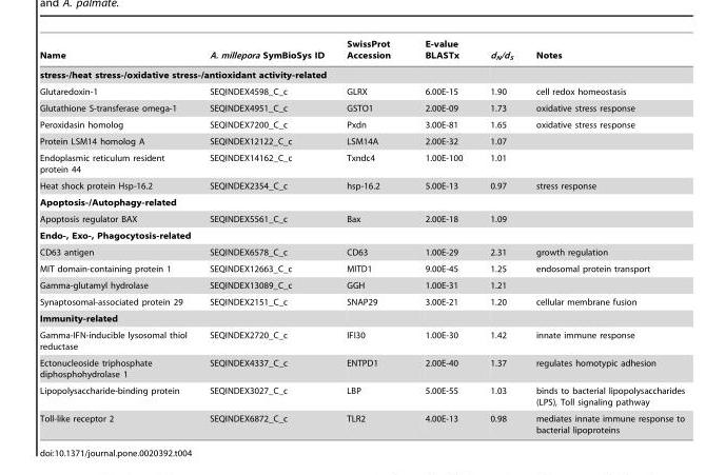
<table><thead><tr><td>Name</td><td>A. millepora SymBioSys ID</td><td>SwissProt Accession</td><td>E-value BLASTx</td><td>d<sub>N</sub>/d<sub>S</sub></td><td>Notes</td></tr></thead><tbody><tr><td colspan="6">stress-/heat stress-/oxidative stress-/antioxidant activity-related</td></tr><tr><td>Glutaredoxin-1</td><td>SEQINDEX4598_C_c</td><td>GLRX</td><td>6.00E-15</td><td>1.90</td><td>cell redox homeostasis</td></tr><tr><td>Glutathione S-transferase omega-1</td><td>SEQINDEX4951_C_c</td><td>GSTO1</td><td>2.00E-09</td><td>1.73</td><td>oxidative stress response</td></tr><tr><td>Peroxidasin homolog</td><td>SEQINDEX7200_C_c</td><td>Pxdn</td><td>3.00E-81</td><td>1.65</td><td>oxidative stress response</td></tr><tr><td>Protein LSM14 homolog A</td><td>SEQINDEX12122_C_c</td><td>LSM14A</td><td>2.00E-32</td><td>1.07</td><td></td></tr><tr><td>Endoplasmic reticulum resident protein 44</td><td>SEQINDEX14162_C_c</td><td>Txndc4</td><td>1.00E-100</td><td>1.01</td><td></td></tr><tr><td>Heat shock protein Hsp-16.2</td><td>SEQINDEX2354_C_c</td><td>hsp-16.2</td><td>5.00E-13</td><td>0.97</td><td>stress response</td></tr><tr><td colspan="6">Apoptosis-/Autophagy-related</td></tr><tr><td>Apoptosis regulator BAX</td><td>SEQINDEX5561_C_c</td><td>Bax</td><td>2.00E-18</td><td>1.09</td><td></td></tr><tr><td colspan="6">Endo-, Exo-, Phagocytosis-related</td></tr><tr><td>CD63 antigen</td><td>SEQINDEX6578_C_c</td><td>CD63</td><td>1.00E-29</td><td>2.31</td><td>growth regulation</td></tr><tr><td>MIT domain-containing protein 1</td><td>SEQINDEX12663_C_c</td><td>MITD1</td><td>9.00E-45</td><td>1.25</td><td>endosomal protein transport</td></tr><tr><td>Gamma-glutamyl hydrolase</td><td>SEQINDEX13089_C_c</td><td>GGH</td><td>1.00E-31</td><td>1.21</td><td></td></tr><tr><td>Synaptosomal-associated protein 29</td><td>SEQINDEX2151_C_c</td><td>SNAP29</td><td>3.00E-21</td><td>1.20</td><td>cellular membrane fusion</td></tr><tr><td colspan="6">Immunity-related</td></tr><tr><td>Gamma-IFN-inducible lysosomal thiol reductase</td><td>SEQINDEX2720_C_c</td><td>IFI30</td><td>1.00E-30</td><td>1.42</td><td>innate immune response</td></tr><tr><td>Ectonucleoside triphosphate diphosphohydrolase 1</td><td>SEQINDEX4337_C_c</td><td>ENTPD1</td><td>2.00E-40</td><td>1.37</td><td>regulates homotypic adhesion</td></tr><tr><td>Lipopolysaccharide-binding protein</td><td>SEQINDEX3027_C_c</td><td>LBP</td><td>5.00E-55</td><td>1.03</td><td>binds to bacterial lipopolysaccharides (LPS), Toll signaling pathway</td></tr><tr><td>Toll-like receptor 2</td><td>SEQINDEX6872_C_c</td><td>TLR2</td><td>4.00E-13</td><td>0.98</td><td>mediates innate immune response to bacterial lipoproteins</td></tr></tbody></table>